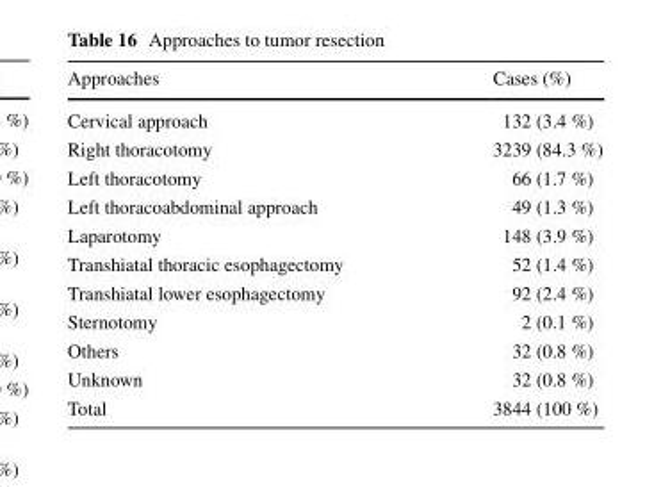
<table><thead><tr><td>Approaches</td><td>Cases (%)</td></tr></thead><tbody><tr><td>Cervical approach</td><td>132 (3.4 %)</td></tr><tr><td>Right thoracotomy</td><td>3239 (84.3 %)</td></tr><tr><td>Left thoracotomy</td><td>66 (1.7 %)</td></tr><tr><td>Left thoracoabdominal approach</td><td>49 (1.3 %)</td></tr><tr><td>Laparotomy</td><td>148 (3.9 %)</td></tr><tr><td>Transhiatal thoracic esophagectomy</td><td>52 (1.4 %)</td></tr><tr><td>Transhiatal lower esophagectomy</td><td>92 (2.4 %)</td></tr><tr><td>Sternotomy</td><td>2 (0.1 %)</td></tr><tr><td>Others</td><td>32 (0.8 %)</td></tr><tr><td>Unknown</td><td>32 (0.8 %)</td></tr><tr><td>Total</td><td>3844 (100 %)</td></tr></tbody></table>